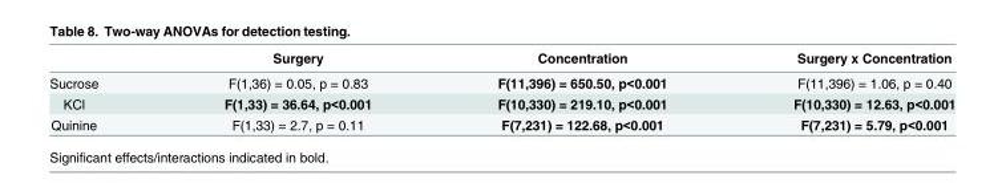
<table><thead><tr><td></td><td>Surgery</td><td>Concentration</td><td>Surgery x Concentration</td></tr></thead><tbody><tr><td>Sucrose</td><td>F(1,36) = 0.05, p = 0.83</td><td>F(11,396) = 650.50, p&lt;0.001</td><td>F(11,396) = 1.06, p = 0.40</td></tr><tr><td>KCl</td><td>F(1,33) = 36.64, p&lt;0.001</td><td>F(10,330) = 219.10, p&lt;0.001</td><td>F(10,330) = 12.63, p&lt;0.001</td></tr><tr><td>Quinine</td><td>F(1,33) = 2.7, p = 0.11</td><td>F(7,231) = 122.68, p&lt;0.001</td><td>F(7,231) = 5.79, p&lt;0.001</td></tr></tbody></table>